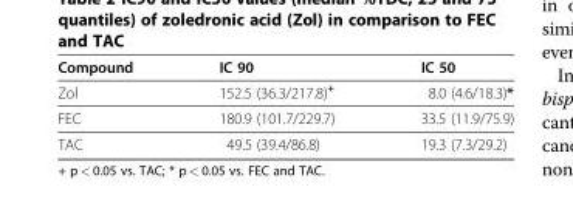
<table><thead><tr><td>Compound</td><td>IC 90</td><td>IC 50</td></tr></thead><tbody><tr><td>Zol</td><td>152.5 (36.3/217.8)<sup>+</sup></td><td>8.0 (4.6/18.3)*</td></tr><tr><td>FEC</td><td>180.9 (101.7/229.7)</td><td>33.5 (11.9/75.9)</td></tr><tr><td>TAC</td><td>49.5 (39.4/86.8)</td><td>19.3 (7.3/29.2)</td></tr></tbody></table>